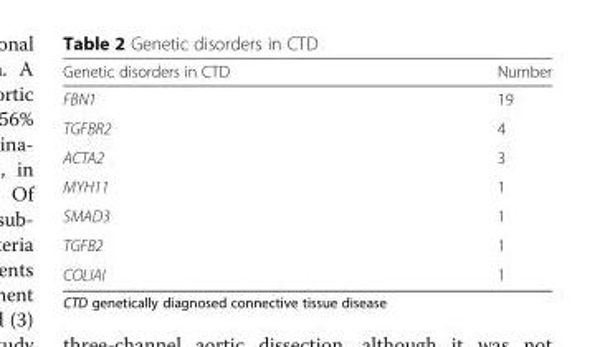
<table><thead><tr><td>Genetic disorders in CTD</td><td>Number</td></tr></thead><tbody><tr><td>FBN1</td><td>19</td></tr><tr><td>TGFBR2</td><td>4</td></tr><tr><td>ACTA2</td><td>3</td></tr><tr><td>MYH11</td><td>1</td></tr><tr><td>SMAD3</td><td>1</td></tr><tr><td>TGFB2</td><td>1</td></tr><tr><td>COLIAI</td><td>1</td></tr></tbody></table>